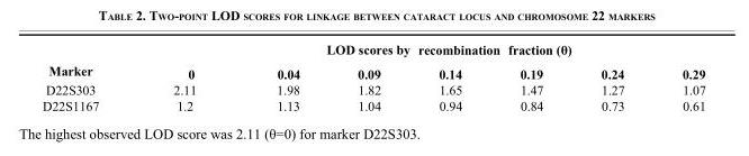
<table><tbody><tr><td rowspan="2">Marker</td><td colspan="7">LOD scores by recombination fraction (θ)</td></tr><tr><td>0</td><td>0.04</td><td>0.09</td><td>0.14</td><td>0.19</td><td>0.24</td><td>0.29</td></tr><tr><td>D22S303</td><td>2.11</td><td>1.98</td><td>1.82</td><td>1.65</td><td>1.47</td><td>1.27</td><td>1.07</td></tr><tr><td>D22S1167</td><td>1.2</td><td>1.13</td><td>1.04</td><td>0.94</td><td>0.84</td><td>0.73</td><td>0.61</td></tr></tbody></table>